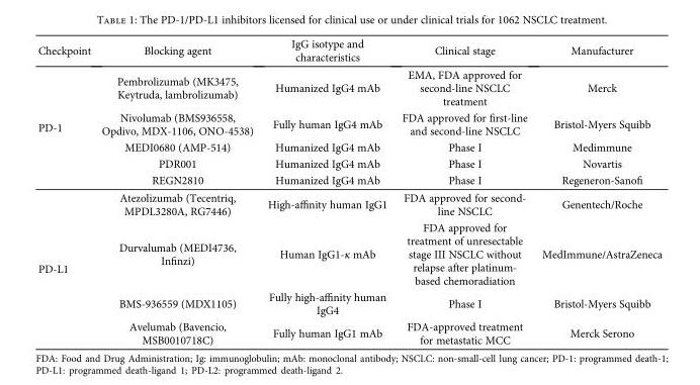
<table><thead><tr><td>Checkpoint</td><td>Blocking agent</td><td>IgG isotype and characteristics</td><td>Clinical stage</td><td>Manufacturer</td></tr></thead><tbody><tr><td rowspan="5">PD-1</td><td>Pembrolizumab (MK3475, Keytruda, lambrolizumab)</td><td>Humanized IgG4 mAb</td><td>EMA, FDA approved for second-line NSCLC treatment</td><td>Merck</td></tr><tr><td>Nivolumab (BMS936558, Opdivo, MDX-1106, ONO-4538)</td><td>Fully human IgG4 mAb</td><td>FDA approved for first-line and second-line NSCLC</td><td>Bristol-Myers Squibb</td></tr><tr><td>MEDI0680 (AMP-514)</td><td>Humanized IgG4 mAb</td><td>Phase I</td><td>Medimmune</td></tr><tr><td>PDR001</td><td>Humanized IgG4 mAb</td><td>Phase I</td><td>Novartis</td></tr><tr><td>REGN2810</td><td>Humanized IgG4 mAb</td><td>Phase I</td><td>Regeneron-Sanofi</td></tr><tr><td rowspan="4">PD-L1</td><td>Atezolizumab (Tecentriq, MPDL3280A, RG7446)</td><td>High-affinity human IgG1</td><td>FDA approved for second- line NSCLC</td><td>Genentech/Roche</td></tr><tr><td>Durvalumab (MEDI4736, Infinzi)</td><td>Human IgG1-κ mAb</td><td>FDA approved for treatment of unresectable stage III NSCLC without relapse after platinum- based chemoradiation</td><td>MedImmune/AstraZeneca</td></tr><tr><td>BMS-936559 (MDX1105)</td><td>Fully high-affinity human IgG4</td><td>Phase I</td><td>Bristol-Myers Squibb</td></tr><tr><td>Avelumab (Bavencio, MSB0010718C)</td><td>Fully human IgG1 mAb</td><td>FDA-approved treatment for metastatic MCC</td><td>Merck Serono</td></tr></tbody></table>